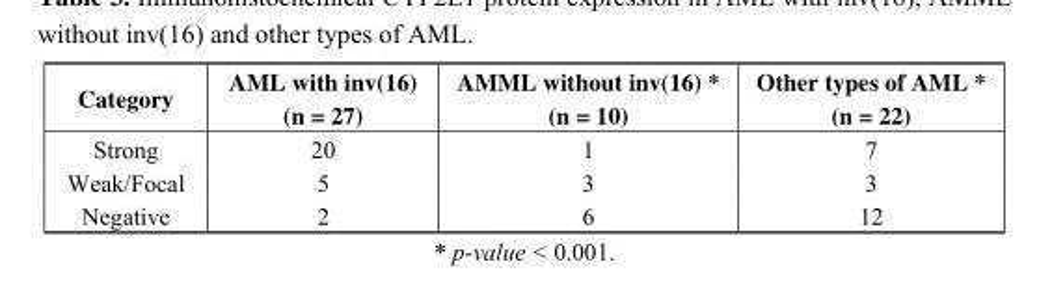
<table><thead><tr><td>Category</td><td>AML with inv(16) (n = 27)</td><td>AMML without inv(16) * (n = 10)</td><td>Other types of AML * (n = 22)</td></tr></thead><tbody><tr><td>Strong</td><td>20</td><td>1</td><td>7</td></tr><tr><td>Weak/Focal</td><td>5</td><td>3</td><td>3</td></tr><tr><td>Negative</td><td>2</td><td>6</td><td>12</td></tr></tbody></table>